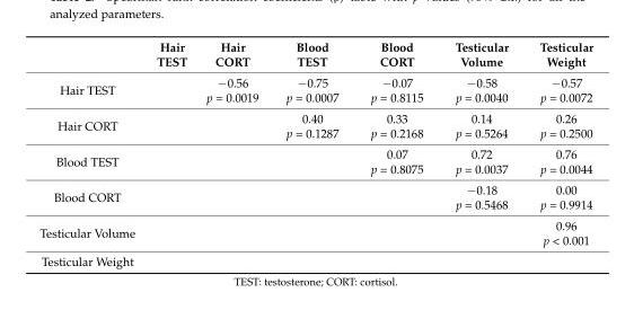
<table><thead><tr><td></td><td>Hair TEST</td><td>Hair CORT</td><td>Blood TEST</td><td>Blood CORT</td><td>Testicular Volume</td><td>Testicular Weight</td></tr></thead><tbody><tr><td>Hair TEST</td><td></td><td>−0.56 p = 0.0019</td><td>−0.75 p = 0.0007</td><td>−0.07 p = 0.8115</td><td>−0.58 p = 0.0040</td><td>−0.57 p = 0.0072</td></tr><tr><td>Hair CORT</td><td></td><td></td><td>0.40 p = 0.1287</td><td>0.33 p = 0.2168</td><td>0.14 p = 0.5264</td><td>0.26 p = 0.2500</td></tr><tr><td>Blood TEST</td><td></td><td></td><td></td><td>0.07 p = 0.8075</td><td>0.72 p = 0.0037</td><td>0.76 p = 0.0044</td></tr><tr><td>Blood CORT</td><td></td><td></td><td></td><td></td><td>−0.18 p = 0.5468</td><td>0.00 p = 0.9914</td></tr><tr><td>Testicular Volume</td><td></td><td></td><td></td><td></td><td></td><td>0.96 p &lt; 0.001</td></tr><tr><td>Testicular Weight</td><td></td><td></td><td></td><td></td><td></td><td></td></tr></tbody></table>